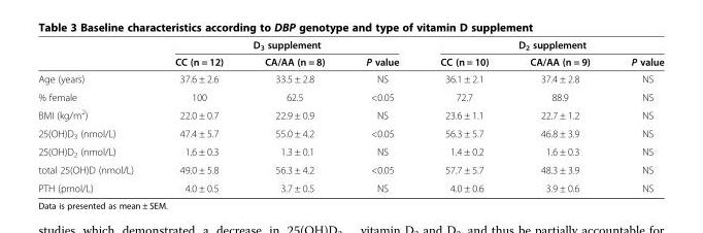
<table><thead><tr><td rowspan="2"></td><td colspan="3">D<sub>3</sub> supplement</td><td colspan="3">D<sub>2</sub> supplement</td></tr><tr><td>CC (n = 12)</td><td>CA/AA (n = 8)</td><td>P value</td><td>CC (n = 10)</td><td>CA/AA (n = 9)</td><td>P value</td></tr></thead><tbody><tr><td>Age (years)</td><td>37.6 ± 2.6</td><td>33.5 ± 2.8</td><td>NS</td><td>36.1 ± 2.1</td><td>37.4 ± 2.8</td><td>NS</td></tr><tr><td>% female</td><td>100</td><td>62.5</td><td>&lt;0.05</td><td>72.7</td><td>88.9</td><td>NS</td></tr><tr><td>BMI (kg/m<sup>2</sup>)</td><td>22.0 ± 0.7</td><td>22.9 ± 0.9</td><td>NS</td><td>23.6 ± 1.1</td><td>22.7 ± 1.2</td><td>NS</td></tr><tr><td>25(OH)D<sub>3</sub> (nmol/L)</td><td>47.4 ± 5.7</td><td>55.0 ± 4.2</td><td>&lt;0.05</td><td>56.3 ± 5.7</td><td>46.8 ± 3.9</td><td>NS</td></tr><tr><td>25(OH)D<sub>2</sub> (nmol/L)</td><td>1.6 ± 0.3</td><td>1.3 ± 0.1</td><td>NS</td><td>1.4 ± 0.2</td><td>1.6 ± 0.3</td><td>NS</td></tr><tr><td>total 25(OH)D (nmol/L)</td><td>49.0 ± 5.8</td><td>56.3 ± 4.2</td><td>&lt;0.05</td><td>57.7 ± 5.7</td><td>48.3 ± 3.9</td><td>NS</td></tr><tr><td>PTH (pmol/L)</td><td>4.0 ± 0.5</td><td>3.7 ± 0.5</td><td>NS</td><td>4.0 ± 0.6</td><td>3.9 ± 0.6</td><td>NS</td></tr></tbody></table>